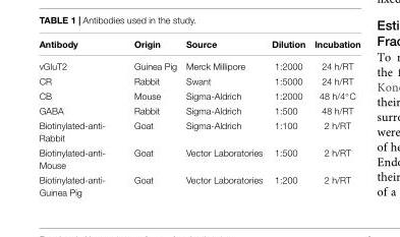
<table><thead><tr><td>Antibody</td><td>Origin</td><td>Source</td><td>Dilution</td><td>Incubation</td></tr></thead><tbody><tr><td>vGluT2</td><td>Guinea Pig</td><td>Merck Millipore</td><td>1:2000</td><td>24 h/RT</td></tr><tr><td>CR</td><td>Rabbit</td><td>Swant</td><td>1:5000</td><td>24 h/RT</td></tr><tr><td>CB</td><td>Mouse</td><td>Sigma-Aldrich</td><td>1:2000</td><td>48 h/4◦C</td></tr><tr><td>GABA</td><td>Rabbit</td><td>Sigma-Aldrich</td><td>1:500</td><td>48 h/RT</td></tr><tr><td>Biotinylated-anti- Rabbit</td><td>Goat</td><td>Sigma-Aldrich</td><td>1:100</td><td>2 h/RT</td></tr><tr><td>Biotinylated-anti- Mouse</td><td>Goat</td><td>Vector Laboratories</td><td>1:500</td><td>2 h/RT</td></tr><tr><td>Biotinylated-anti- Guinea Pig</td><td>Goat</td><td>Vector Laboratories</td><td>1:200</td><td>2 h/RT</td></tr></tbody></table>